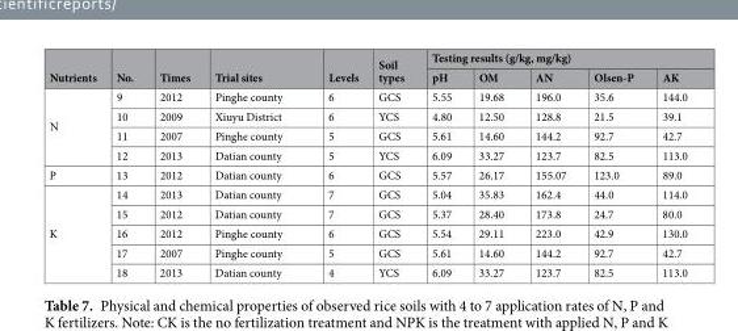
<table><thead><tr><td rowspan="2">Nutrients</td><td rowspan="2">No.</td><td rowspan="2">Times</td><td rowspan="2">Trial sites</td><td rowspan="2">Levels</td><td rowspan="2">Soil types</td><td colspan="5">Testing results (g/kg, mg/kg)</td></tr><tr><td>pH</td><td>OM</td><td>AN</td><td>Olsen-P</td><td>AK</td></tr></thead><tbody><tr><td rowspan="4">N</td><td>9</td><td>2012</td><td>Pinghe county</td><td>6</td><td>GCS</td><td>5.55</td><td>19.68</td><td>196.0</td><td>35.6</td><td>144.0</td></tr><tr><td>10</td><td>2009</td><td>Xiuyu District</td><td>6</td><td>YCS</td><td>4.80</td><td>12.50</td><td>128.8</td><td>21.5</td><td>39.1</td></tr><tr><td>11</td><td>2007</td><td>Pinghe county</td><td>5</td><td>GCS</td><td>5.61</td><td>14.60</td><td>144.2</td><td>92.7</td><td>42.7</td></tr><tr><td>12</td><td>2013</td><td>Datian county</td><td>5</td><td>YCS</td><td>6.09</td><td>33.27</td><td>123.7</td><td>82.5</td><td>113.0</td></tr><tr><td>P</td><td>13</td><td>2012</td><td>Datian county</td><td>6</td><td>GCS</td><td>5.57</td><td>26.17</td><td>155.07</td><td>123.0</td><td>89.0</td></tr><tr><td rowspan="5">K</td><td>14</td><td>2013</td><td>Datian county</td><td>7</td><td>GCS</td><td>5.04</td><td>35.83</td><td>162.4</td><td>44.0</td><td>114.0</td></tr><tr><td>15</td><td>2012</td><td>Datian county</td><td>7</td><td>GCS</td><td>5.37</td><td>28.40</td><td>173.8</td><td>24.7</td><td>80.0</td></tr><tr><td>16</td><td>2012</td><td>Pinghe county</td><td>6</td><td>GCS</td><td>5.54</td><td>29.11</td><td>223.0</td><td>42.9</td><td>130.0</td></tr><tr><td>17</td><td>2007</td><td>Pinghe county</td><td>5</td><td>GCS</td><td>5.61</td><td>14.60</td><td>144.2</td><td>92.7</td><td>42.7</td></tr><tr><td>18</td><td>2013</td><td>Datian county</td><td>4</td><td>YCS</td><td>6.09</td><td>33.27</td><td>123.7</td><td>82.5</td><td>113.0</td></tr></tbody></table>